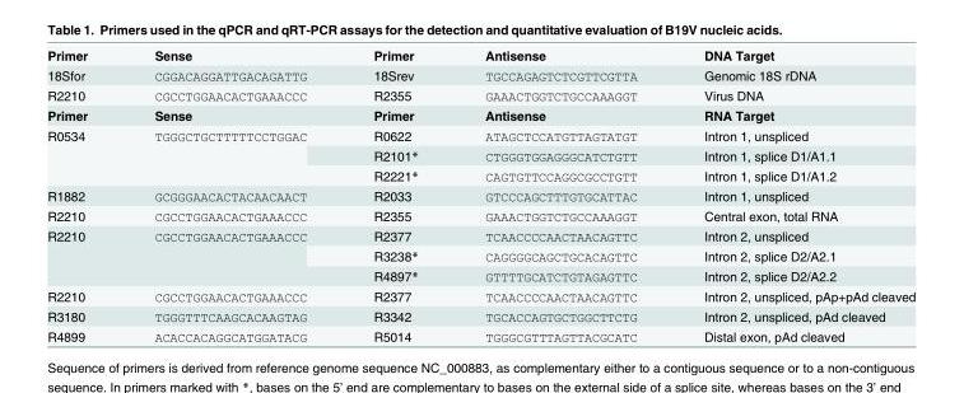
<table><tbody><tr><td>Primer</td><td>Sense</td><td>Primer</td><td>Antisense</td><td>DNA Target</td></tr><tr><td>18Sfor</td><td>CGGACAGGATTGACAGATTG</td><td>18Srev</td><td>TGCCAGAGTCTCGTTCGTTA</td><td>Genomic 18S rDNA</td></tr><tr><td>R2210</td><td>CGCCTGGAACACTGAAACCC</td><td>R2355</td><td>GAAACTGGTCTGCCAAAGGT</td><td>Virus DNA</td></tr><tr><td>Primer</td><td>Sense</td><td>Primer</td><td>Antisense</td><td>RNA Target</td></tr><tr><td rowspan="3">R0534</td><td rowspan="3">TGGGCTGCTTTTTCCTGGAC</td><td>R0622</td><td>ATAGCTCCATGTTAGTATGT</td><td>Intron 1, unspliced</td></tr><tr><td>R2101*</td><td>CTGGGTGGAGGGCATCTGTT</td><td>Intron 1, splice D1/A1.1</td></tr><tr><td>R2221*</td><td>CAGTGTTCCAGGCGCCTGTT</td><td>Intron 1, splice D1/A1.2</td></tr><tr><td>R1882</td><td>GCGGGAACACTACAACAACT</td><td>R2033</td><td>GTCCCAGCTTTGTGCATTAC</td><td>Intron 1, unspliced</td></tr><tr><td>R2210</td><td>CGCCTGGAACACTGAAACCC</td><td>R2355</td><td>GAAACTGGTCTGCCAAAGGT</td><td>Central exon, total RNA</td></tr><tr><td rowspan="3">R2210</td><td rowspan="3">CGCCTGGAACACTGAAACCC</td><td>R2377</td><td>TCAACCCCAACTAACAGTTC</td><td>Intron 2, unspliced</td></tr><tr><td>R3238*</td><td>CAGGGGCAGCTGCACAGTTC</td><td>Intron 2, splice D2/A2.1</td></tr><tr><td>R4897*</td><td>GTTTTGCATCTGTAGAGTTC</td><td>Intron 2, splice D2/A2.2</td></tr><tr><td>R2210</td><td>CGCCTGGAACACTGAAACCC</td><td>R2377</td><td>TCAACCCCAACTAACAGTTC</td><td>Intron 2, unspliced, pAp+pAd cleaved</td></tr><tr><td>R3180</td><td>TGGGTTTCAAGCACAAGTAG</td><td>R3342</td><td>TGCACCAGTGCTGGCTTCTG</td><td>Intron 2, unspliced, pAd cleaved</td></tr><tr><td>R4899</td><td>ACACCACAGGCATGGATACG</td><td>R5014</td><td>TGGGCGTTTAGTTACGCATC</td><td>Distal exon, pAd cleaved</td></tr></tbody></table>